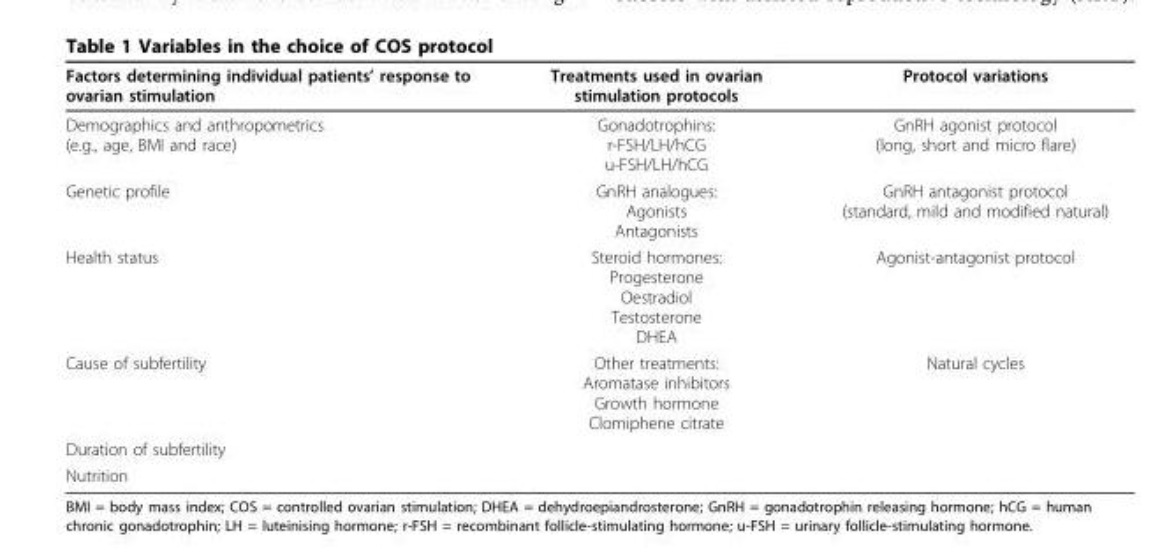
<table><thead><tr><td>Factors determining individual patients’ response to ovarian stimulation</td><td>Treatments used in ovarian stimulation protocols</td><td>Protocol variations</td></tr></thead><tbody><tr><td>Demographics and anthropometrics (e.g., age, BMI and race)</td><td>Gonadotrophins: r-FSH/LH/hCG u-FSH/LH/hCG</td><td>GnRH agonist protocol (long, short and micro flare)</td></tr><tr><td>Genetic profile</td><td>GnRH analogues: Agonists Antagonists</td><td>GnRH antagonist protocol (standard, mild and modified natural)</td></tr><tr><td>Health status</td><td>Steroid hormones: Progesterone Oestradiol Testosterone DHEA</td><td>Agonist-antagonist protocol</td></tr><tr><td>Cause of subfertility</td><td>Other treatments: Aromatase inhibitors Growth hormone Clomiphene citrate</td><td>Natural cycles</td></tr><tr><td colspan="3">Duration of subfertility</td></tr><tr><td>Nutrition</td><td></td><td></td></tr></tbody></table>